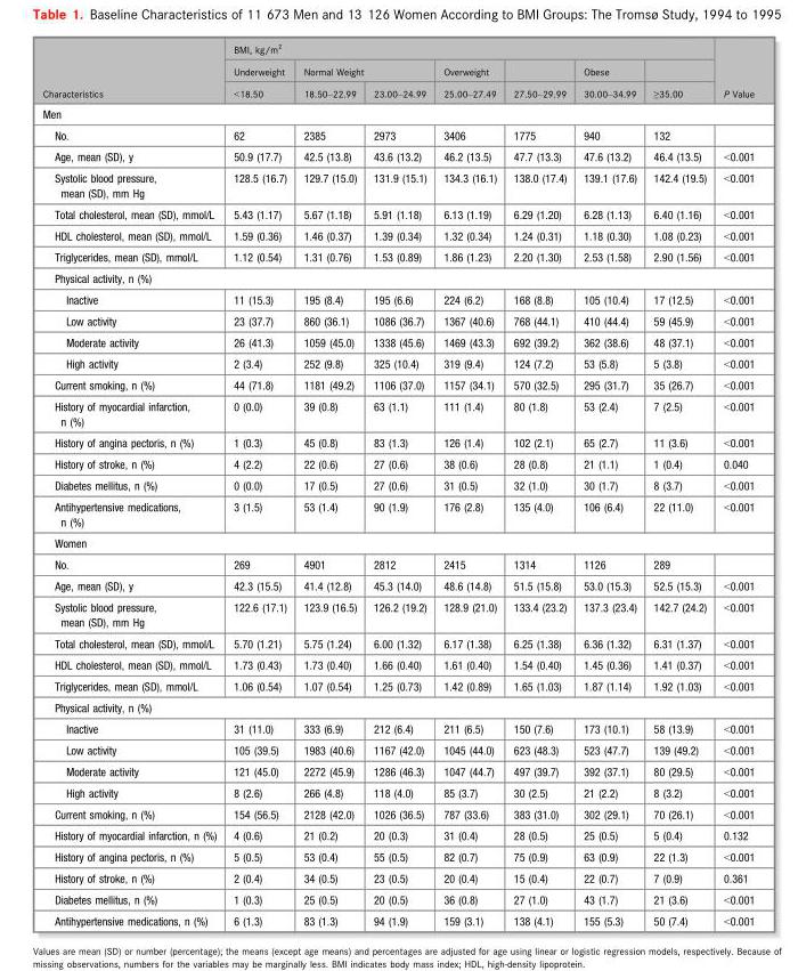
<table><thead><tr><td rowspan="3">Characteristics</td><td colspan="7">BMI, kg/m<sup>2</sup></td><td rowspan="3">P Value</td></tr><tr><td rowspan="2">Underweight &lt;18.50</td><td colspan="2">Normal Weight</td><td rowspan="2">Overweight 25.00–27.49</td><td rowspan="2">27.50–29.99</td><td rowspan="2">Obese 30.00–34.99</td><td rowspan="2">≥35.00</td></tr><tr><td>18.50–22.99</td><td>23.00–24.99</td></tr></thead><tbody><tr><td colspan="9">Men</td></tr><tr><td>No.</td><td>62</td><td>2385</td><td>2973</td><td>3406</td><td>1775</td><td>940</td><td>132</td><td></td></tr><tr><td>Age, mean (SD), y</td><td>50.9 (17.7)</td><td>42.5 (13.8)</td><td>43.6 (13.2)</td><td>46.2 (13.5)</td><td>47.7 (13.3)</td><td>47.6 (13.2)</td><td>46.4 (13.5)</td><td>&lt;0.001</td></tr><tr><td>Systolic blood pressure, mean (SD), mm Hg</td><td>128.5 (16.7)</td><td>129.7 (15.0)</td><td>131.9 (15.1)</td><td>134.3 (16.1)</td><td>138.0 (17.4)</td><td>139.1 (17.6)</td><td>142.4 (19.5)</td><td>&lt;0.001</td></tr><tr><td>Total cholesterol, mean (SD), mmol/L</td><td>5.43 (1.17)</td><td>5.67 (1.18)</td><td>5.91 (1.18)</td><td>6.13 (1.19)</td><td>6.29 (1.20)</td><td>6.28 (1.13)</td><td>6.40 (1.16)</td><td>&lt;0.001</td></tr><tr><td>HDL cholesterol, mean (SD), mmol/L</td><td>1.59 (0.36)</td><td>1.46 (0.37)</td><td>1.39 (0.34)</td><td>1.32 (0.34)</td><td>1.24 (0.31)</td><td>1.18 (0.30)</td><td>1.08 (0.23)</td><td>&lt;0.001</td></tr><tr><td>Triglycerides, mean (SD), mmol/L</td><td>1.12 (0.54)</td><td>1.31 (0.76)</td><td>1.53 (0.89)</td><td>1.86 (1.23)</td><td>2.20 (1.30)</td><td>2.53 (1.58)</td><td>2.90 (1.56)</td><td>&lt;0.001</td></tr><tr><td colspan="9">Physical activity, n (%)</td></tr><tr><td>Inactive</td><td>11 (15.3)</td><td>195 (8.4)</td><td>195 (6.6)</td><td>224 (6.2)</td><td>168 (8.8)</td><td>105 (10.4)</td><td>17 (12.5)</td><td>&lt;0.001</td></tr><tr><td>Low activity</td><td>23 (37.7)</td><td>860 (36.1)</td><td>1086 (36.7)</td><td>1367 (40.6)</td><td>768 (44.1)</td><td>410 (44.4)</td><td>59 (45.9)</td><td>&lt;0.001</td></tr><tr><td>Moderate activity</td><td>26 (41.3)</td><td>1059 (45.0)</td><td>1338 (45.6)</td><td>1469 (43.3)</td><td>692 (39.2)</td><td>362 (38.6)</td><td>48 (37.1)</td><td>&lt;0.001</td></tr><tr><td>High activity</td><td>2 (3.4)</td><td>252 (9.8)</td><td>325 (10.4)</td><td>319 (9.4)</td><td>124 (7.2)</td><td>53 (5.8)</td><td>5 (3.8)</td><td>&lt;0.001</td></tr><tr><td>Current smoking, n (%)</td><td>44 (71.8)</td><td>1181 (49.2)</td><td>1106 (37.0)</td><td>1157 (34.1)</td><td>570 (32.5)</td><td>295 (31.7)</td><td>35 (26.7)</td><td>&lt;0.001</td></tr><tr><td>History of myocardial infarction, n (%)</td><td>0 (0.0)</td><td>39 (0.8)</td><td>63 (1.1)</td><td>111 (1.4)</td><td>80 (1.8)</td><td>53 (2.4)</td><td>7 (2.5)</td><td>&lt;0.001</td></tr><tr><td>History of angina pectoris, n (%)</td><td>1 (0.3)</td><td>45 (0.8)</td><td>83 (1.3)</td><td>126 (1.4)</td><td>102 (2.1)</td><td>65 (2.7)</td><td>11 (3.6)</td><td>&lt;0.001</td></tr><tr><td>History of stroke, n (%)</td><td>4 (2.2)</td><td>22 (0.6)</td><td>27 (0.6)</td><td>38 (0.6)</td><td>28 (0.8)</td><td>21 (1.1)</td><td>1 (0.4)</td><td>0.040</td></tr><tr><td>Diabetes mellitus, n (%)</td><td>0 (0.0)</td><td>17 (0.5)</td><td>27 (0.6)</td><td>31 (0.5)</td><td>32 (1.0)</td><td>30 (1.7)</td><td>8 (3.7)</td><td>&lt;0.001</td></tr><tr><td>Antihypertensive medications, n (%)</td><td>3 (1.5)</td><td>53 (1.4)</td><td>90 (1.9)</td><td>176 (2.8)</td><td>135 (4.0)</td><td>106 (6.4)</td><td>22 (11.0)</td><td>&lt;0.001</td></tr><tr><td colspan="9">Women</td></tr><tr><td>No.</td><td>269</td><td>4901</td><td>2812</td><td>2415</td><td>1314</td><td>1126</td><td>289</td><td></td></tr><tr><td>Age, mean (SD), y</td><td>42.3 (15.5)</td><td>41.4 (12.8)</td><td>45.3 (14.0)</td><td>48.6 (14.8)</td><td>51.5 (15.8)</td><td>53.0 (15.3)</td><td>52.5 (15.3)</td><td>&lt;0.001</td></tr><tr><td>Systolic blood pressure, mean (SD), mm Hg</td><td>122.6 (17.1)</td><td>123.9 (16.5)</td><td>126.2 (19.2)</td><td>128.9 (21.0)</td><td>133.4 (23.2)</td><td>137.3 (23.4)</td><td>142.7 (24.2)</td><td>&lt;0.001</td></tr><tr><td>Total cholesterol, mean (SD), mmol/L</td><td>5.70 (1.21)</td><td>5.75 (1.24)</td><td>6.00 (1.32)</td><td>6.17 (1.38)</td><td>6.25 (1.38)</td><td>6.36 (1.32)</td><td>6.31 (1.37)</td><td>&lt;0.001</td></tr><tr><td>HDL cholesterol, mean (SD), mmol/L</td><td>1.73 (0.43)</td><td>1.73 (0.40)</td><td>1.66 (0.40)</td><td>1.61 (0.40)</td><td>1.54 (0.40)</td><td>1.45 (0.36)</td><td>1.41 (0.37)</td><td>&lt;0.001</td></tr><tr><td>Triglycerides, mean (SD), mmol/L</td><td>1.06 (0.54)</td><td>1.07 (0.54)</td><td>1.25 (0.73)</td><td>1.42 (0.89)</td><td>1.65 (1.03)</td><td>1.87 (1.14)</td><td>1.92 (1.03)</td><td>&lt;0.001</td></tr><tr><td colspan="9">Physical activity, n (%)</td></tr><tr><td>Inactive</td><td>31 (11.0)</td><td>333 (6.9)</td><td>212 (6.4)</td><td>211 (6.5)</td><td>150 (7.6)</td><td>173 (10.1)</td><td>58 (13.9)</td><td>&lt;0.001</td></tr><tr><td>Low activity</td><td>105 (39.5)</td><td>1983 (40.6)</td><td>1167 (42.0)</td><td>1045 (44.0)</td><td>623 (48.3)</td><td>523 (47.7)</td><td>139 (49.2)</td><td>&lt;0.001</td></tr><tr><td>Moderate activity</td><td>121 (45.0)</td><td>2272 (45.9)</td><td>1286 (46.3)</td><td>1047 (44.7)</td><td>497 (39.7)</td><td>392 (37.1)</td><td>80 (29.5)</td><td>&lt;0.001</td></tr><tr><td>High activity</td><td>8 (2.6)</td><td>266 (4.8)</td><td>118 (4.0)</td><td>85 (3.7)</td><td>30 (2.5)</td><td>21 (2.2)</td><td>8 (3.2)</td><td>&lt;0.001</td></tr><tr><td>Current smoking, n (%)</td><td>154 (56.5)</td><td>2128 (42.0)</td><td>1026 (36.5)</td><td>787 (33.6)</td><td>383 (31.0)</td><td>302 (29.1)</td><td>70 (26.1)</td><td>&lt;0.001</td></tr><tr><td>History of myocardial infarction, n (%)</td><td>4 (0.6)</td><td>21 (0.2)</td><td>20 (0.3)</td><td>31 (0.4)</td><td>28 (0.5)</td><td>25 (0.5)</td><td>5 (0.4)</td><td>0.132</td></tr><tr><td>History of angina pectoris, n (%)</td><td>5 (0.5)</td><td>53 (0.4)</td><td>55 (0.5)</td><td>82 (0.7)</td><td>75 (0.9)</td><td>63 (0.9)</td><td>22 (1.3)</td><td>&lt;0.001</td></tr><tr><td>History of stroke, n (%)</td><td>2 (0.4)</td><td>34 (0.5)</td><td>23 (0.5)</td><td>20 (0.4)</td><td>15 (0.4)</td><td>22 (0.7)</td><td>7 (0.9)</td><td>0.361</td></tr><tr><td>Diabetes mellitus, n (%)</td><td>1 (0.3)</td><td>25 (0.5)</td><td>20 (0.5)</td><td>36 (0.8)</td><td>27 (1.0)</td><td>43 (1.7)</td><td>21 (3.6)</td><td>&lt;0.001</td></tr><tr><td>Antihypertensive medications, n (%)</td><td>6 (1.3)</td><td>83 (1.3)</td><td>94 (1.9)</td><td>159 (3.1)</td><td>138 (4.1)</td><td>155 (5.3)</td><td>50 (7.4)</td><td>&lt;0.001</td></tr></tbody></table>